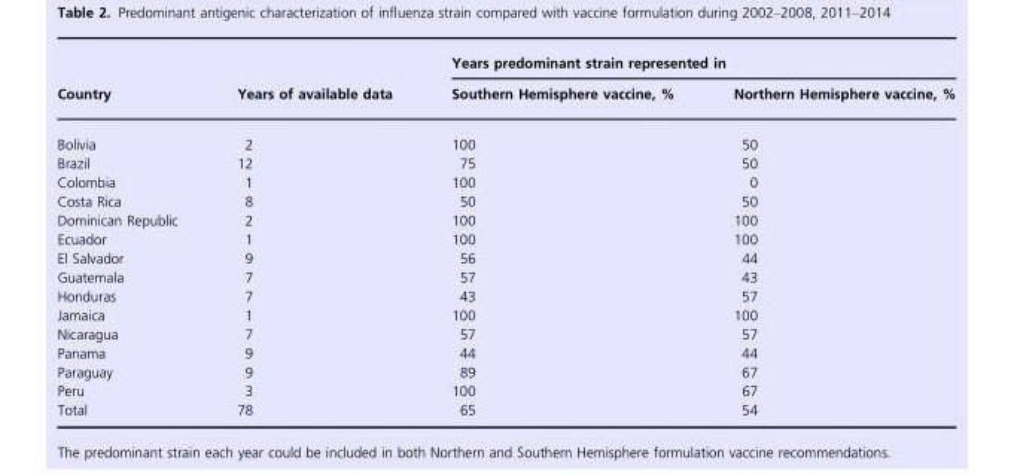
<table><thead><tr><td rowspan="2">Country</td><td rowspan="2">Years of available data</td><td colspan="2">Years predominant strain represented in</td></tr><tr><td>Southern Hemisphere vaccine, %</td><td>Northern Hemisphere vaccine, %</td></tr></thead><tbody><tr><td>Bolivia</td><td>2</td><td>100</td><td>50</td></tr><tr><td>Brazil</td><td>12</td><td>75</td><td>50</td></tr><tr><td>Colombia</td><td>1</td><td>100</td><td>0</td></tr><tr><td>Costa Rica</td><td>8</td><td>50</td><td>50</td></tr><tr><td>Dominican Republic</td><td>2</td><td>100</td><td>100</td></tr><tr><td>Ecuador</td><td>1</td><td>100</td><td>100</td></tr><tr><td>El Salvador</td><td>9</td><td>56</td><td>44</td></tr><tr><td>Guatemala</td><td>7</td><td>57</td><td>43</td></tr><tr><td>Honduras</td><td>7</td><td>43</td><td>57</td></tr><tr><td>Jamaica</td><td>1</td><td>100</td><td>100</td></tr><tr><td>Nicaragua</td><td>7</td><td>57</td><td>57</td></tr><tr><td>Panama</td><td>9</td><td>44</td><td>44</td></tr><tr><td>Paraguay</td><td>9</td><td>89</td><td>67</td></tr><tr><td>Peru</td><td>3</td><td>100</td><td>67</td></tr><tr><td>Total</td><td>78</td><td>65</td><td>54</td></tr></tbody></table>